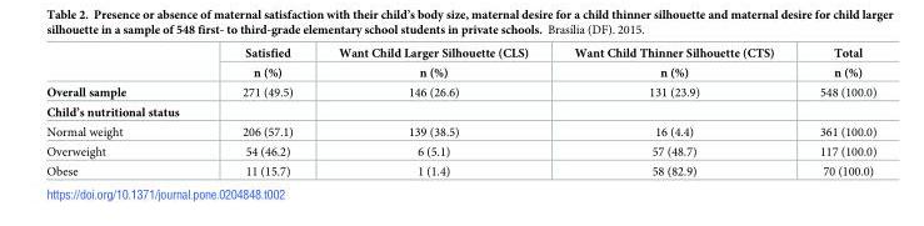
<table><thead><tr><td rowspan="2"></td><td rowspan="2">Satisfied n (%)</td><td rowspan="2">Want Child Larger Silhouette (CLS) n (%)</td><td rowspan="2">Want Child Thinner Silhouette (CTS) n (%)</td><td rowspan="2">Total n (%)</td></tr><tr></tr></thead><tbody><tr><td>Overall sample</td><td>271 (49.5)</td><td>146 (26.6)</td><td>131 (23.9)</td><td>548 (100.0)</td></tr><tr><td colspan="5">Child’s nutritional status</td></tr><tr><td>Normal weight</td><td>206 (57.1)</td><td>139 (38.5)</td><td>16 (4.4)</td><td>361 (100.0)</td></tr><tr><td>Overweight</td><td>54 (46.2)</td><td>6 (5.1)</td><td>57 (48.7)</td><td>117 (100.0)</td></tr><tr><td>Obese</td><td>11 (15.7)</td><td>1 (1.4)</td><td>58 (82.9)</td><td>70 (100.0)</td></tr></tbody></table>